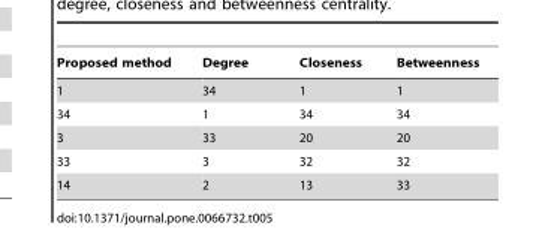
<table><thead><tr><td>Proposed method</td><td>Degree</td><td>Closeness</td><td>Betweenness</td></tr></thead><tbody><tr><td>1</td><td>34</td><td>1</td><td>1</td></tr><tr><td>34</td><td>1</td><td>34</td><td>34</td></tr><tr><td>3</td><td>33</td><td>20</td><td>20</td></tr><tr><td>33</td><td>3</td><td>32</td><td>32</td></tr><tr><td>14</td><td>2</td><td>13</td><td>33</td></tr></tbody></table>